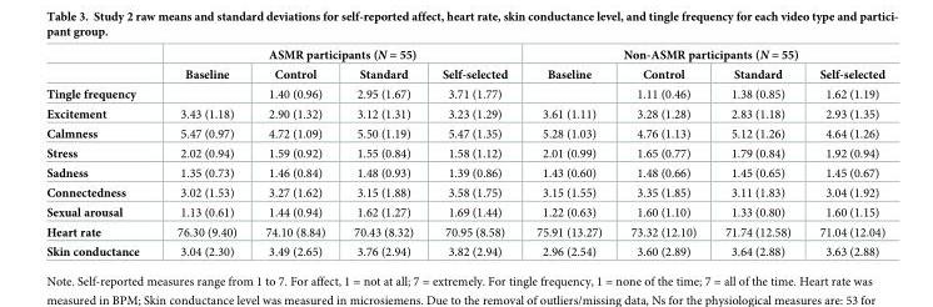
<table><thead><tr><td rowspan="2"></td><td colspan="4">ASMR participants (N = 55)</td><td colspan="4">Non-ASMR participants (N = 55)</td></tr><tr><td>Baseline</td><td>Control</td><td>Standard</td><td>Self-selected</td><td>Baseline</td><td>Control</td><td>Standard</td><td>Self-selected</td></tr></thead><tbody><tr><td>Tingle frequency</td><td></td><td>1.40 (0.96)</td><td>2.95 (1.67)</td><td>3.71 (1.77)</td><td></td><td>1.11 (0.46)</td><td>1.38 (0.85)</td><td>1.62 (1.19)</td></tr><tr><td>Excitement</td><td>3.43 (1.18)</td><td>2.90 (1.32)</td><td>3.12 (1.31)</td><td>3.23 (1.29)</td><td>3.61 (1.11)</td><td>3.28 (1.28)</td><td>2.83 (1.18)</td><td>2.93 (1.35)</td></tr><tr><td>Calmness</td><td>5.47 (0.97)</td><td>4.72 (1.09)</td><td>5.50 (1.19)</td><td>5.47 (1.35)</td><td>5.28 (1.03)</td><td>4.76 (1.13)</td><td>5.12 (1.26)</td><td>4.64 (1.26)</td></tr><tr><td>Stress</td><td>2.02 (0.94)</td><td>1.59 (0.92)</td><td>1.55 (0.84)</td><td>1.58 (1.12)</td><td>2.01 (0.99)</td><td>1.65 (0.77)</td><td>1.79 (0.84)</td><td>1.92 (0.94)</td></tr><tr><td>Sadness</td><td>1.35 (0.73)</td><td>1.46 (0.84)</td><td>1.48 (0.93)</td><td>1.39 (0.86)</td><td>1.43 (0.60)</td><td>1.48 (0.66)</td><td>1.45 (0.65)</td><td>1.45 (0.67)</td></tr><tr><td>Connectedness</td><td>3.02 (1.53)</td><td>3.27 (1.62)</td><td>3.15 (1.88)</td><td>3.58 (1.75)</td><td>3.15 (1.55)</td><td>3.35 (1.85)</td><td>3.11 (1.83)</td><td>3.04 (1.92)</td></tr><tr><td>Sexual arousal</td><td>1.13 (0.61)</td><td>1.44 (0.94)</td><td>1.62 (1.27)</td><td>1.69 (1.44)</td><td>1.22 (0.63)</td><td>1.60 (1.10)</td><td>1.33 (0.80)</td><td>1.60 (1.15)</td></tr><tr><td>Heart rate</td><td>76.30 (9.40)</td><td>74.10 (8.84)</td><td>70.43 (8.32)</td><td>70.95 (8.58)</td><td>75.91 (13.27)</td><td>73.32 (12.10)</td><td>71.74 (12.58)</td><td>71.04 (12.04)</td></tr><tr><td>Skin conductance</td><td>3.04 (2.30)</td><td>3.49 (2.65)</td><td>3.76 (2.94)</td><td>3.82 (2.94)</td><td>2.96 (2.54)</td><td>3.60 (2.89)</td><td>3.64 (2.88)</td><td>3.63 (2.88)</td></tr></tbody></table>